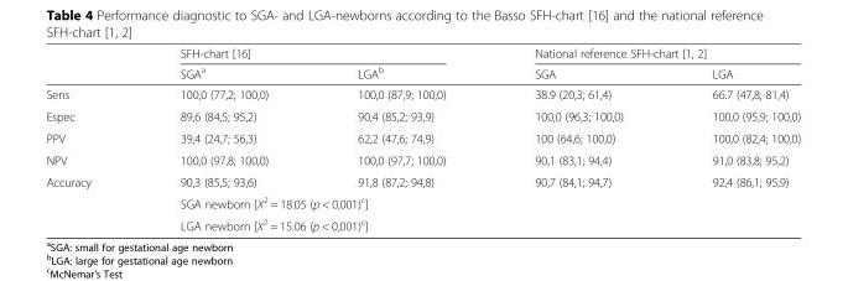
<table><thead><tr><td rowspan="2"></td><td colspan="2">SFH-chart [16]</td><td colspan="2">National reference SFH-chart [1, 2]</td></tr><tr><td>SGA<sup>a</sup></td><td>LGA<sup>b</sup></td><td>SGA</td><td>LGA</td></tr></thead><tbody><tr><td>Sens</td><td>100,0 (77,2; 100,0)</td><td>100,0 (87,9; 100,0)</td><td>38.9 (20,3; 61,4)</td><td>66.7 (47,8; 81,4)</td></tr><tr><td>Espec</td><td>89,6 (84,5; 95,2)</td><td>90,4 (85,2; 93,9)</td><td>100,0 (96,3; 100,0)</td><td>100,0 (95,9; 100,0)</td></tr><tr><td>PPV</td><td>39,4 (24,7; 56,3)</td><td>62,2 (47,6; 74,9)</td><td>100 (64,6; 100,0)</td><td>100,0 (82,4; 100,0)</td></tr><tr><td>NPV</td><td>100,0 (97,8; 100,0)</td><td>100,0 (97,7; 100,0)</td><td>90,1 (83,1; 94,4)</td><td>91,0 (83,8; 95,2)</td></tr><tr><td rowspan="3">Accuracy</td><td>90,3 (85,5; 93,6)</td><td>91,8 (87,2; 94,8)</td><td>90,7 (84,1; 94,7)</td><td>92,4 (86,1; 95,9)</td></tr><tr><td colspan="3">SGA newborn [X<sup>2</sup> = 18.05 (p &lt; 0,001)<sup>c</sup>]</td><td></td></tr><tr><td colspan="3">LGA newborn [X<sup>2</sup> = 15.06 (p &lt; 0,001)<sup>c</sup>]</td><td></td></tr></tbody></table>